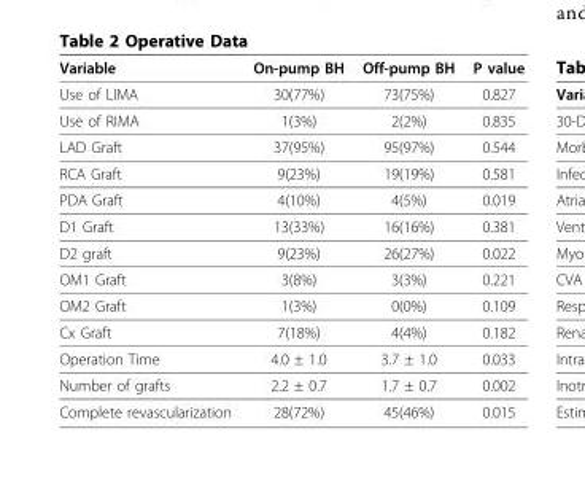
<table><thead><tr><td>Variable</td><td>On-pump BH</td><td>Off-pump BH</td><td>P value</td></tr></thead><tbody><tr><td>Use of LIMA</td><td>30(77%)</td><td>73(75%)</td><td>0.827</td></tr><tr><td>Use of RIMA</td><td>1(3%)</td><td>2(2%)</td><td>0.835</td></tr><tr><td>LAD Graft</td><td>37(95%)</td><td>95(97%)</td><td>0.544</td></tr><tr><td>RCA Graft</td><td>9(23%)</td><td>19(19%)</td><td>0.581</td></tr><tr><td>PDA Graft</td><td>4(10%)</td><td>4(5%)</td><td>0.019</td></tr><tr><td>D1 Graft</td><td>13(33%)</td><td>16(16%)</td><td>0.381</td></tr><tr><td>D2 graft</td><td>9(23%)</td><td>26(27%)</td><td>0.022</td></tr><tr><td>OM1 Graft</td><td>3(8%)</td><td>3(3%)</td><td>0.221</td></tr><tr><td>OM2 Graft</td><td>1(3%)</td><td>0(0%)</td><td>0.109</td></tr><tr><td>Cx Graft</td><td>7(18%)</td><td>4(4%)</td><td>0.182</td></tr><tr><td>Operation Time</td><td>4.0 ± 1.0</td><td>3.7 ± 1.0</td><td>0.033</td></tr><tr><td>Number of grafts</td><td>2.2 ± 0.7</td><td>1.7 ± 0.7</td><td>0.002</td></tr><tr><td>Complete revascularization</td><td>28(72%)</td><td>45(46%)</td><td>0.015</td></tr></tbody></table>